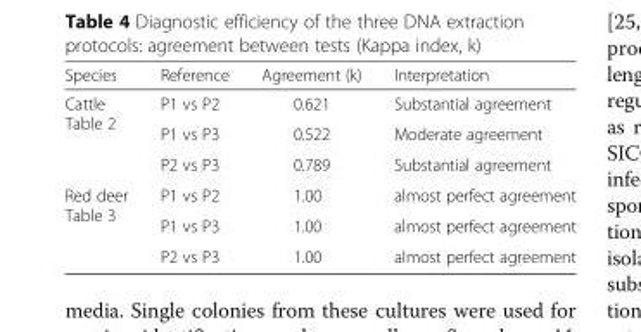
<table><thead><tr><td>Species</td><td>Reference</td><td>Agreement (k)</td><td>Interpretation</td></tr></thead><tbody><tr><td rowspan="3">Cattle Table 2</td><td>P1 vs P2</td><td>0.621</td><td>Substantial agreement</td></tr><tr><td>P1 vs P3</td><td>0.522</td><td>Moderate agreement</td></tr><tr><td>P2 vs P3</td><td>0.789</td><td>Substantial agreement</td></tr><tr><td rowspan="3">Red deer Table 3</td><td>P1 vs P2</td><td>1.00</td><td>almost perfect agreement</td></tr><tr><td>P1 vs P3</td><td>1.00</td><td>almost perfect agreement</td></tr><tr><td>P2 vs P3</td><td>1.00</td><td>almost perfect agreement</td></tr></tbody></table>